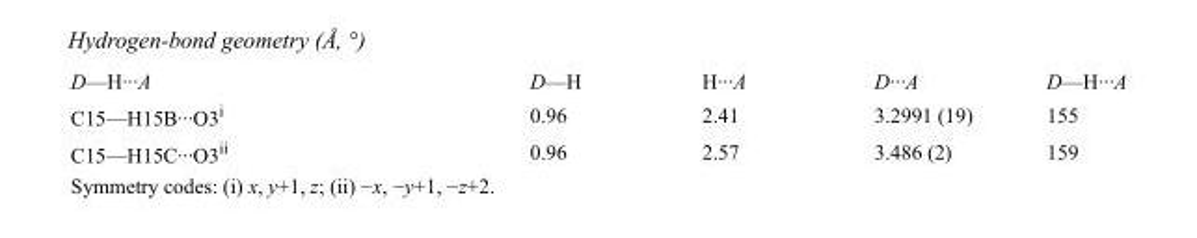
<table><tbody><tr><td>D—H···A</td><td>D—H</td><td>H···A</td><td>D···A</td><td>D—H···A</td></tr><tr><td>C15—H15B···O3<sup>i</sup></td><td>0.96</td><td>2.41</td><td>3.2991 (19)</td><td>155</td></tr><tr><td>C15—H15C···O3<sup>ii</sup></td><td>0.96</td><td>2.57</td><td>3.486 (2)</td><td>159</td></tr></tbody></table>